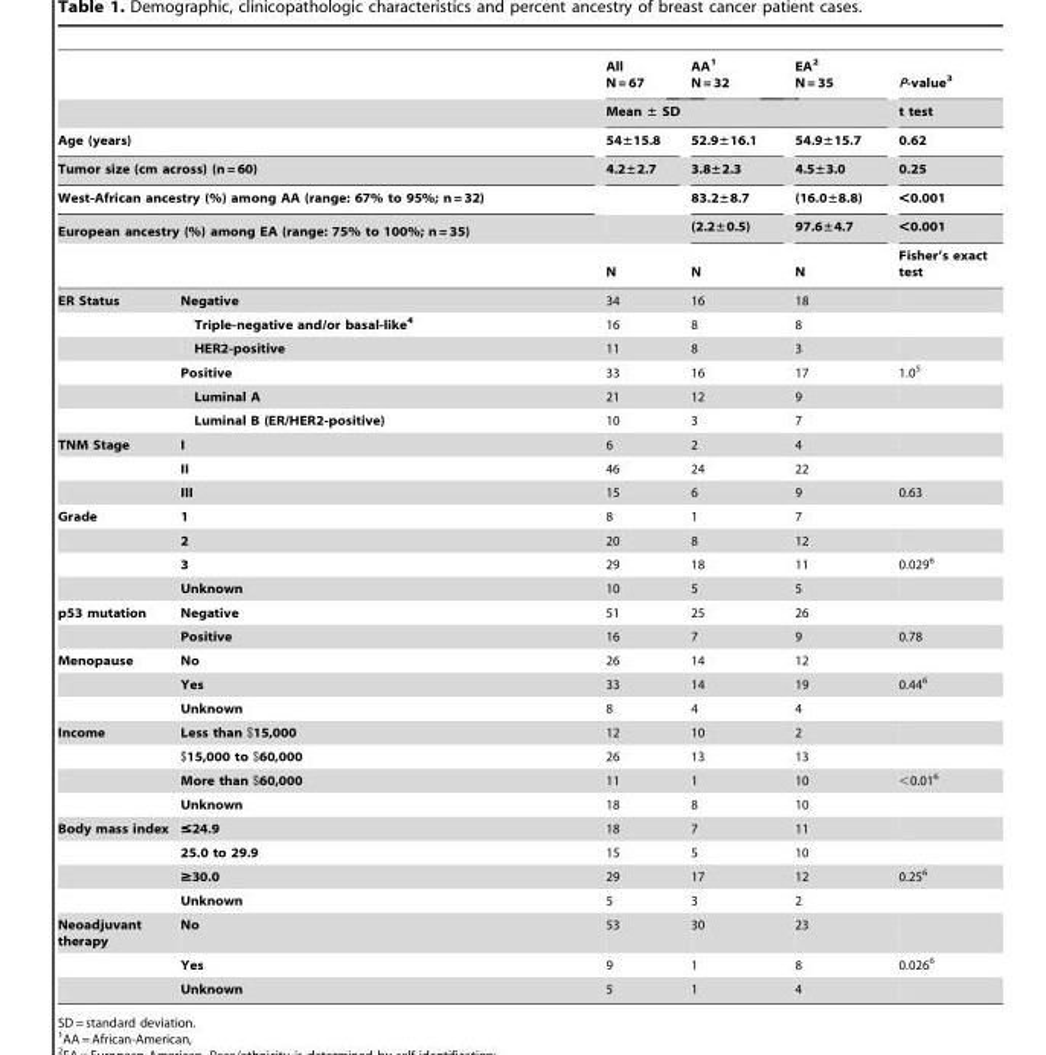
<table><thead><tr><td rowspan="2"></td><td rowspan="2"></td><td>All N = 67</td><td>AA<sup>1</sup> N = 32</td><td>EA<sup>2</sup> N = 35</td><td rowspan="7">P-value3 t test 0.62 0.25 &lt;0.001 &lt;0.001 Fisher’s exact test</td></tr><tr><td colspan="3">Mean ± SD</td></tr><tr><td rowspan="4" colspan="2">Age (years) Tumor size (cm across) (n = 60) West-African ancestry (%) among AA (range: 67% to 95%; n = 32) European ancestry (%) among EA (range: 75% to 100%; n = 35)</td><td rowspan="5">54±15.8 4.2±2.7 N</td><td rowspan="5">52.9±16.1 3.8±2.3 83.2±8.7 (2.2±0.5) N</td><td rowspan="5">54.9±15.7 4.5±3.0 (16.0±8.8) 97.6±4.7 N</td></tr><tr></tr><tr></tr><tr></tr><tr><td></td><td></td></tr></thead><tbody><tr><td rowspan="6">ER Status</td><td>Negative</td><td>34</td><td>16</td><td>18</td><td></td></tr><tr><td>Triple-negative and/or basal-like4</td><td>16</td><td>8</td><td>8</td><td></td></tr><tr><td>HER2-positive</td><td>11</td><td>8</td><td>3</td><td></td></tr><tr><td>Positive</td><td>33</td><td>16</td><td>17</td><td>1.0<sup>5</sup></td></tr><tr><td>Luminal A</td><td>21</td><td>12</td><td>9</td><td></td></tr><tr><td>Luminal B (ER/HER2-positive)</td><td>10</td><td>3</td><td>7</td><td></td></tr><tr><td rowspan="3">TNM Stage</td><td>I</td><td>6</td><td>2</td><td>4</td><td></td></tr><tr><td>II</td><td>46</td><td>24</td><td>22</td><td></td></tr><tr><td>III</td><td>15</td><td>6</td><td>9</td><td>0.63</td></tr><tr><td rowspan="4">Grade</td><td>1</td><td>8</td><td>1</td><td>7</td><td></td></tr><tr><td>2</td><td>20</td><td>8</td><td>12</td><td></td></tr><tr><td>3</td><td>29</td><td>18</td><td>11</td><td>0.029<sup>6</sup></td></tr><tr><td>Unknown</td><td>10</td><td>5</td><td>5</td><td></td></tr><tr><td rowspan="2">p53 mutation</td><td>Negative</td><td>51</td><td>25</td><td>26</td><td></td></tr><tr><td>Positive</td><td>16</td><td>7</td><td>9</td><td>0.78</td></tr><tr><td rowspan="3">Menopause</td><td>No</td><td>26</td><td>14</td><td>12</td><td></td></tr><tr><td>Yes</td><td>33</td><td>14</td><td>19</td><td>0.44<sup>6</sup></td></tr><tr><td>Unknown</td><td>8</td><td>4</td><td>4</td><td></td></tr><tr><td rowspan="4">Income</td><td>Less than $15,000</td><td>12</td><td>10</td><td>2</td><td></td></tr><tr><td>$15,000 to $60,000</td><td>26</td><td>13</td><td>13</td><td></td></tr><tr><td>More than $60,000</td><td>11</td><td>1</td><td>10</td><td>&lt;0.01<sup>6</sup></td></tr><tr><td>Unknown</td><td>18</td><td>8</td><td>10</td><td></td></tr><tr><td rowspan="4">Body mass index</td><td>≤24.9</td><td>18</td><td>7</td><td>11</td><td></td></tr><tr><td>25.0 to 29.9</td><td>15</td><td>5</td><td>10</td><td></td></tr><tr><td>≥30.0</td><td>29</td><td>17</td><td>12</td><td>0.25<sup>6</sup></td></tr><tr><td>Unknown</td><td>5</td><td>3</td><td>2</td><td></td></tr><tr><td rowspan="3">Neoadjuvant therapy</td><td>No</td><td>53</td><td>30</td><td>23</td><td></td></tr><tr><td>Yes</td><td>9</td><td>1</td><td>8</td><td>0.026<sup>6</sup></td></tr><tr><td>Unknown</td><td>5</td><td>1</td><td>4</td><td></td></tr></tbody></table>